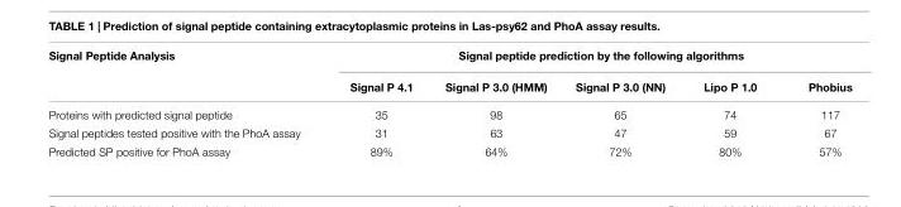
<table><thead><tr><td rowspan="2">Signal Peptide Analysis</td><td colspan="5">Signal peptide prediction by the following algorithms</td></tr><tr><td>Signal P 4.1</td><td>Signal P 3.0 (HMM)</td><td>Signal P 3.0 (NN)</td><td>Lipo P 1.0</td><td>Phobius</td></tr></thead><tbody><tr><td>Proteins with predicted signal peptide</td><td>35</td><td>98</td><td>65</td><td>74</td><td>117</td></tr><tr><td>Signal peptides tested positive with the PhoA assay</td><td>31</td><td>63</td><td>47</td><td>59</td><td>67</td></tr><tr><td>Predicted SP positive for PhoA assay</td><td>89%</td><td>64%</td><td>72%</td><td>80%</td><td>57%</td></tr></tbody></table>